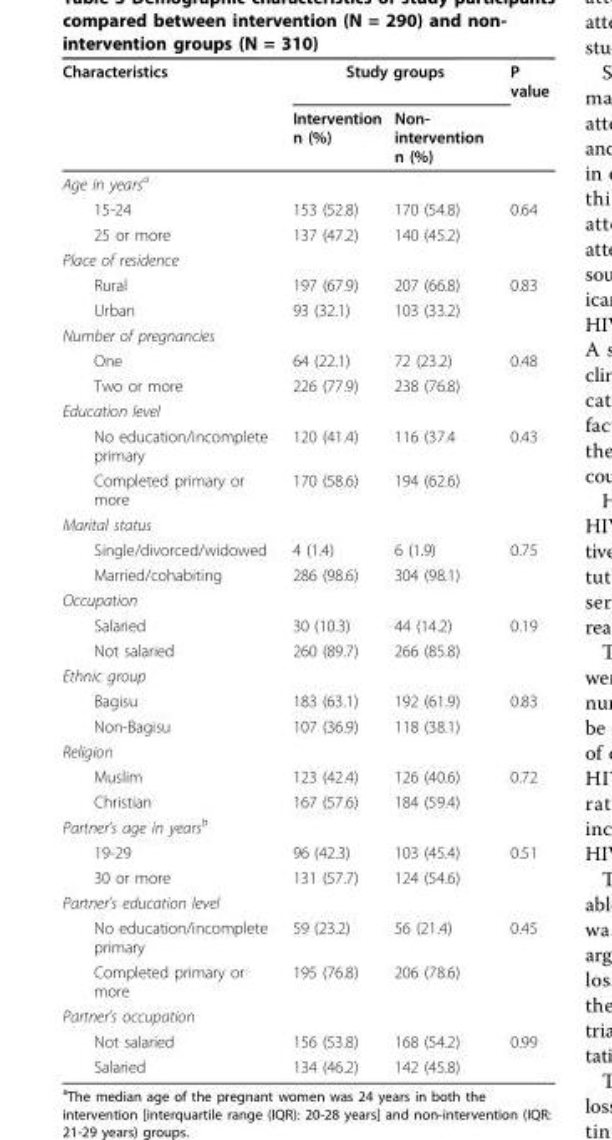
<table><thead><tr><td rowspan="2">Characteristics</td><td colspan="2">Study groups</td><td rowspan="2">P value</td></tr><tr><td>Intervention n (%)</td><td>Non- intervention n (%)</td></tr></thead><tbody><tr><td colspan="4">Age in years<sup>a</sup></td></tr><tr><td>15-24</td><td>153 (52.8)</td><td>170 (54.8)</td><td>0.64</td></tr><tr><td>25 or more</td><td>137 (47.2)</td><td>140 (45.2)</td><td></td></tr><tr><td colspan="4">Place of residence</td></tr><tr><td>Rural</td><td>197 (67.9)</td><td>207 (66.8)</td><td>0.83</td></tr><tr><td>Urban</td><td>93 (32.1)</td><td>103 (33.2)</td><td></td></tr><tr><td colspan="4">Number of pregnancies</td></tr><tr><td>One</td><td>64 (22.1)</td><td>72 (23.2)</td><td>0.48</td></tr><tr><td>Two or more</td><td>226 (77.9)</td><td>238 (76.8)</td><td></td></tr><tr><td colspan="4">Education level</td></tr><tr><td>No education/incomplete primary</td><td>120 (41.4)</td><td>116 (37.4</td><td>0.43</td></tr><tr><td>Completed primary or more</td><td>170 (58.6)</td><td>194 (62.6)</td><td></td></tr><tr><td colspan="4">Marital status</td></tr><tr><td>Single/divorced/widowed</td><td>4 (1.4)</td><td>6 (1.9)</td><td>0.75</td></tr><tr><td>Married/cohabiting</td><td>286 (98.6)</td><td>304 (98.1)</td><td></td></tr><tr><td colspan="4">Occupation</td></tr><tr><td>Salaried</td><td>30 (10.3)</td><td>44 (14.2)</td><td>0.19</td></tr><tr><td>Not salaried</td><td>260 (89.7)</td><td>266 (85.8)</td><td></td></tr><tr><td colspan="4">Ethnic group</td></tr><tr><td>Bagisu</td><td>183 (63.1)</td><td>192 (61.9)</td><td>0.83</td></tr><tr><td>Non-Bagisu</td><td>107 (36.9)</td><td>118 (38.1)</td><td></td></tr><tr><td colspan="4">Religion</td></tr><tr><td>Muslim</td><td>123 (42.4)</td><td>126 (40.6)</td><td>0.72</td></tr><tr><td>Christian</td><td>167 (57.6)</td><td>184 (59.4)</td><td></td></tr><tr><td colspan="4">Partner’s age in years<sup>b</sup></td></tr><tr><td>19-29</td><td>96 (42.3)</td><td>103 (45.4)</td><td>0.51</td></tr><tr><td>30 or more</td><td>131 (57.7)</td><td>124 (54.6)</td><td></td></tr><tr><td colspan="4">Partner’s education level</td></tr><tr><td>No education/incomplete primary</td><td>59 (23.2)</td><td>56 (21.4)</td><td>0.45</td></tr><tr><td>Completed primary or more</td><td>195 (76.8)</td><td>206 (78.6)</td><td></td></tr><tr><td colspan="4">Partner’s occupation</td></tr><tr><td>Not salaried</td><td>156 (53.8)</td><td>168 (54.2)</td><td>0.99</td></tr><tr><td>Salaried</td><td>134 (46.2)</td><td>142 (45.8)</td><td></td></tr></tbody></table>